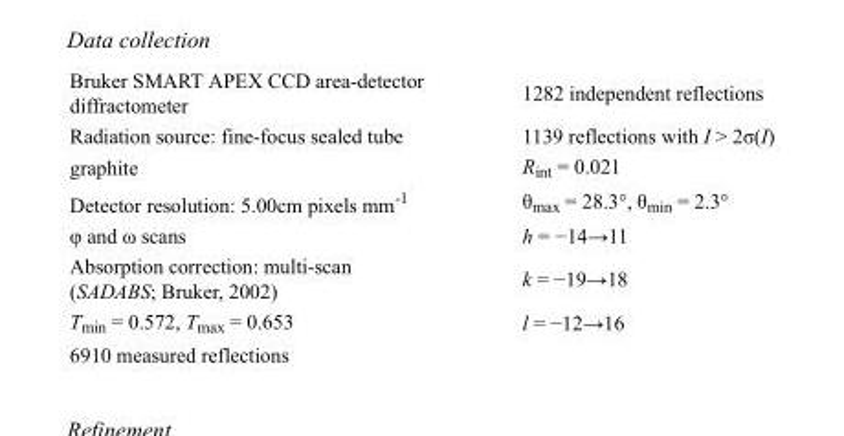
<table><tbody><tr><td>Bruker SMART APEX CCD area-detector diffractometer</td><td>1282 independent reflections</td></tr><tr><td>Radiation source: fine-focus sealed tube</td><td>1139 reflections with I &gt; 2σ(I)</td></tr><tr><td>graphite</td><td>R<sub>int</sub> = 0.021</td></tr><tr><td>Detector resolution: 5.00cm pixels mm<sup>-1</sup></td><td>θ<sub>max</sub> = 28.3°, θ<sub>min</sub> = 2.3°</td></tr><tr><td>φ and ω scans</td><td>h = −14→11</td></tr><tr><td>Absorption correction: multi-scan (SADABS; Bruker, 2002)</td><td>k = −19→18</td></tr><tr><td>T<sub>min</sub> = 0.572, T<sub>max</sub> = 0.653</td><td>l = −12→16</td></tr><tr><td>6910 measured reflections</td><td></td></tr></tbody></table>